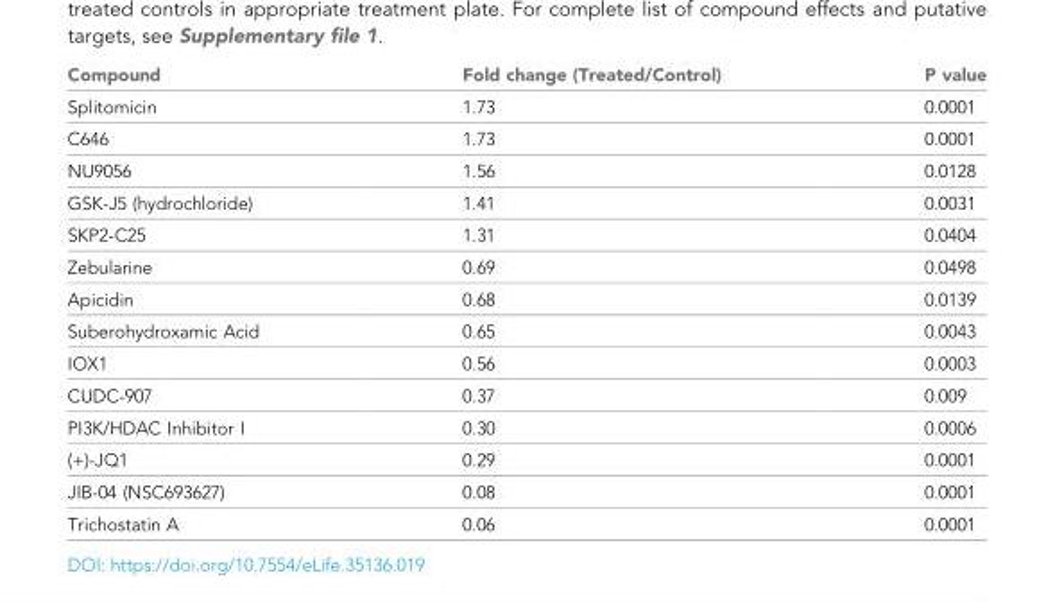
<table><thead><tr><td>Compound</td><td>Fold change (Treated/Control)</td><td>P value</td></tr></thead><tbody><tr><td>Splitomicin</td><td>1.73</td><td>0.0001</td></tr><tr><td>C646</td><td>1.73</td><td>0.0001</td></tr><tr><td>NU9056</td><td>1.56</td><td>0.0128</td></tr><tr><td>GSK-J5 (hydrochloride)</td><td>1.41</td><td>0.0031</td></tr><tr><td>SKP2-C25</td><td>1.31</td><td>0.0404</td></tr><tr><td>Zebularine</td><td>0.69</td><td>0.0498</td></tr><tr><td>Apicidin</td><td>0.68</td><td>0.0139</td></tr><tr><td>Suberohydroxamic Acid</td><td>0.65</td><td>0.0043</td></tr><tr><td>IOX1</td><td>0.56</td><td>0.0003</td></tr><tr><td>CUDC-907</td><td>0.37</td><td>0.009</td></tr><tr><td>PI3K/HDAC Inhibitor I</td><td>0.30</td><td>0.0006</td></tr><tr><td>(+)-JQ1</td><td>0.29</td><td>0.0001</td></tr><tr><td>JIB-04 (NSC693627)</td><td>0.08</td><td>0.0001</td></tr><tr><td>Trichostatin A</td><td>0.06</td><td>0.0001</td></tr></tbody></table>